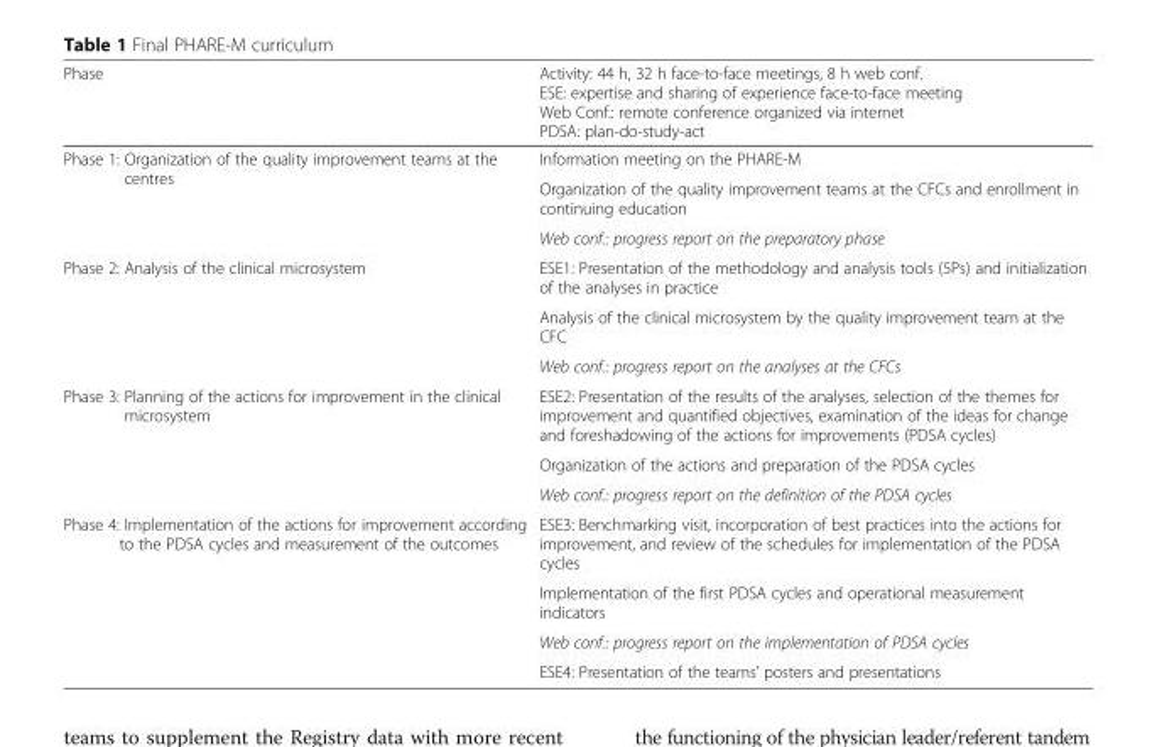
<table><thead><tr><td>Phase</td><td>Activity: 44 h, 32 h face-to-face meetings, 8 h web conf. ESE: expertise and sharing of experience face-to-face meeting Web Conf.: remote conference organized via internet PDSA: plan-do-study-act</td></tr></thead><tbody><tr><td rowspan="3">Phase 1: Organization of the quality improvement teams at the centres</td><td>Information meeting on the PHARE-M</td></tr><tr><td>Organization of the quality improvement teams at the CFCs and enrollment in continuing education</td></tr><tr><td>Web conf.: progress report on the preparatory phase</td></tr><tr><td rowspan="3">Phase 2: Analysis of the clinical microsystem</td><td>ESE1: Presentation of the methodology and analysis tools (5Ps) and initialization of the analyses in practice</td></tr><tr><td>Analysis of the clinical microsystem by the quality improvement team at the CFC</td></tr><tr><td>Web conf.: progress report on the analyses at the CFCs</td></tr><tr><td rowspan="3">Phase 3: Planning of the actions for improvement in the clinical microsystem</td><td>ESE2: Presentation of the results of the analyses, selection of the themes for improvement and quantified objectives, examination of the ideas for change and foreshadowing of the actions for improvements (PDSA cycles)</td></tr><tr><td>Organization of the actions and preparation of the PDSA cycles</td></tr><tr><td>Web conf.: progress report on the definition of the PDSA cycles</td></tr><tr><td rowspan="4">Phase 4: Implementation of the actions for improvement according to the PDSA cycles and measurement of the outcomes</td><td>ESE3: Benchmarking visit, incorporation of best practices into the actions for improvement, and review of the schedules for implementation of the PDSA cycles</td></tr><tr><td>Implementation of the first PDSA cycles and operational measurement indicators</td></tr><tr><td>Web conf.: progress report on the implementation of PDSA cycles</td></tr><tr><td>ESE4: Presentation of the teams’ posters and presentations</td></tr></tbody></table>